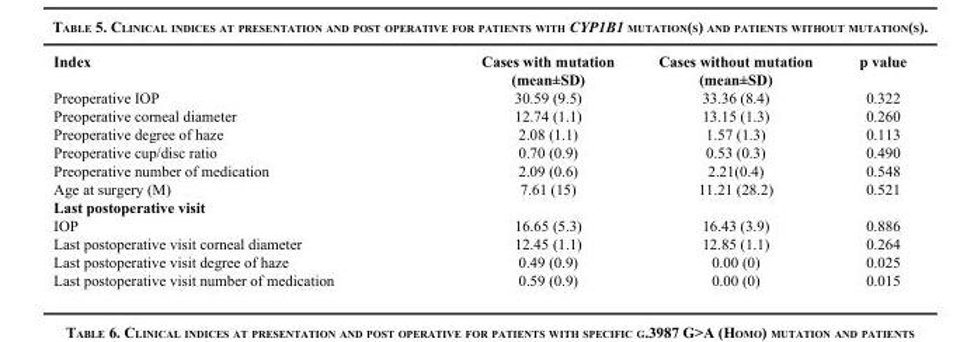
<table><thead><tr><td>Index</td><td>Cases with mutation (mean±SD)</td><td>Cases without mutation (mean±SD)</td><td>p value</td></tr></thead><tbody><tr><td>Preoperative IOP</td><td>30.59 (9.5)</td><td>33.36 (8.4)</td><td>0.322</td></tr><tr><td>Preoperative corneal diameter</td><td>12.74 (1.1)</td><td>13.15 (1.3)</td><td>0.260</td></tr><tr><td>Preoperative degree of haze</td><td>2.08 (1.1)</td><td>1.57 (1.3)</td><td>0.113</td></tr><tr><td>Preoperative cup/disc ratio</td><td>0.70 (0.9)</td><td>0.53 (0.3)</td><td>0.490</td></tr><tr><td>Preoperative number of medication</td><td>2.09 (0.6)</td><td>2.21(0.4)</td><td>0.548</td></tr><tr><td>Age at surgery (M)</td><td>7.61 (15)</td><td>11.21 (28.2)</td><td>0.521</td></tr><tr><td colspan="4">Last postoperative visit</td></tr><tr><td>IOP</td><td>16.65 (5.3)</td><td>16.43 (3.9)</td><td>0.886</td></tr><tr><td>Last postoperative visit corneal diameter</td><td>12.45 (1.1)</td><td>12.85 (1.1)</td><td>0.264</td></tr><tr><td>Last postoperative visit degree of haze</td><td>0.49 (0.9)</td><td>0.00 (0)</td><td>0.025</td></tr><tr><td>Last postoperative visit number of medication</td><td>0.59 (0.9)</td><td>0.00 (0)</td><td>0.015</td></tr></tbody></table>